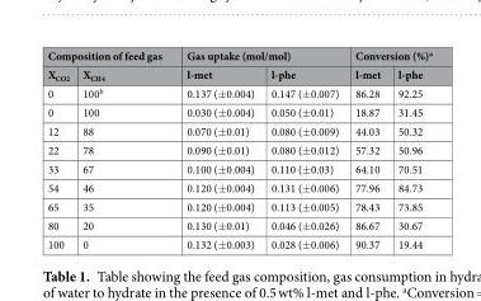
<table><thead><tr><td colspan="2">Composition of feed gas</td><td colspan="2">Gas uptake (mol/mol)</td><td colspan="2">Conversion (%)<sup>a</sup></td></tr><tr><td>X<sub>CO2</sub></td><td>X<sub>CH4</sub></td><td>l-met</td><td>l-phe</td><td>l-met</td><td>l-phe</td></tr></thead><tbody><tr><td>0</td><td>100<sup>b</sup></td><td>0.137 (±0.004)</td><td>0.147 (±0.007)</td><td>86.28</td><td>92.25</td></tr><tr><td>0</td><td>100</td><td>0.030 (±0.004)</td><td>0.050 (±0.01)</td><td>18.87</td><td>31.45</td></tr><tr><td>12</td><td>88</td><td>0.070 (±0.01)</td><td>0.080 (±0.009)</td><td>44.03</td><td>50.32</td></tr><tr><td>22</td><td>78</td><td>0.090 (±0.01)</td><td>0.080 (±0.012)</td><td>57.32</td><td>50.96</td></tr><tr><td>33</td><td>67</td><td>0.100 (±0.004)</td><td>0.110 (±0.03)</td><td>64.10</td><td>70.51</td></tr><tr><td>54</td><td>46</td><td>0.120 (±0.004)</td><td>0.131 (±0.006)</td><td>77.96</td><td>84.73</td></tr><tr><td>65</td><td>35</td><td>0.120 (±0.004)</td><td>0.113 (±0.005)</td><td>78.43</td><td>73.85</td></tr><tr><td>80</td><td>20</td><td>0.130 (±0.01)</td><td>0.046 (±0.026)</td><td>86.67</td><td>30.67</td></tr><tr><td>100</td><td>0</td><td>0.132 (±0.003)</td><td>0.028 (±0.006)</td><td>90.37</td><td>19.44</td></tr></tbody></table>